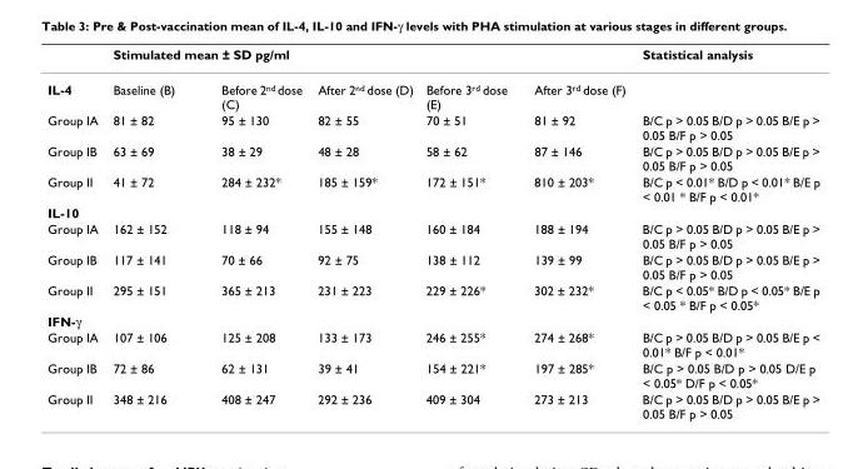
<table><thead><tr><td rowspan="2">IL-4</td><td colspan="5">Stimulated mean ± SD pg/ml</td><td rowspan="2">Statistical analysis</td></tr><tr><td>Baseline (B)</td><td>Before 2<sup>nd</sup> dose (C)</td><td>After 2<sup>nd</sup> dose (D)</td><td>Before 3<sup>rd</sup> dose (E)</td><td>After 3<sup>rd</sup> dose (F)</td></tr></thead><tbody><tr><td>Group IA</td><td>81 ± 82</td><td>95 ± 130</td><td>82 ± 55</td><td>70 ± 51</td><td>81 ± 92</td><td>B/C p &gt; 0.05 B/D p &gt; 0.05 B/E p &gt; 0.05 B/F p &gt; 0.05</td></tr><tr><td>Group IB</td><td>63 ± 69</td><td>38 ± 29</td><td>48 ± 28</td><td>58 ± 62</td><td>87 ± 146</td><td>B/C p &gt; 0.05 B/D p &gt; 0.05 B/E p &gt; 0.05 B/F p &gt; 0.05</td></tr><tr><td>Group II</td><td>41 ± 72</td><td>284 ± 232*</td><td>185 ± 159*</td><td>172 ± 151*</td><td>810 ± 203*</td><td>B/C p &lt; 0.01* B/D p &lt; 0.01* B/E p &lt; 0.01 * B/F p &lt; 0.01*</td></tr><tr><td colspan="7">IL-10</td></tr><tr><td>Group IA</td><td>162 ± 152</td><td>118 ± 94</td><td>155 ± 148</td><td>160 ± 184</td><td>188 ± 194</td><td>B/C p &gt; 0.05 B/D p &gt; 0.05 B/E p &gt; 0.05 B/F p &gt; 0.05</td></tr><tr><td>Group IB</td><td>117 ± 141</td><td>70 ± 66</td><td>92 ± 75</td><td>138 ± 112</td><td>139 ± 99</td><td>B/C p &gt; 0.05 B/D p &gt; 0.05 B/E p &gt; 0.05 B/F p &gt; 0.05</td></tr><tr><td>Group II</td><td>295 ± 151</td><td>365 ± 213</td><td>231 ± 223</td><td>229 ± 226*</td><td>302 ± 232*</td><td>B/C p &lt; 0.05* B/D p &lt; 0.05* B/E p &lt; 0.05 * B/F p &lt; 0.05*</td></tr><tr><td colspan="7">IFN-γ</td></tr><tr><td>Group IA</td><td>107 ± 106</td><td>125 ± 208</td><td>133 ± 173</td><td>246 ± 255*</td><td>274 ± 268*</td><td>B/C p &gt; 0.05 B/D p &gt; 0.05 B/E p &lt; 0.01* B/F p &lt; 0.01*</td></tr><tr><td>Group IB</td><td>72 ± 86</td><td>62 ± 131</td><td>39 ± 41</td><td>154 ± 221*</td><td>197 ± 285*</td><td>B/C p &gt; 0.05 B/D p &gt; 0.05 D/E p &lt; 0.05* D/F p &lt; 0.05*</td></tr><tr><td>Group II</td><td>348 ± 216</td><td>408 ± 247</td><td>292 ± 236</td><td>409 ± 304</td><td>273 ± 213</td><td>B/C p &gt; 0.05 B/D p &gt; 0.05 B/E p &gt; 0.05 B/F p &gt; 0.05</td></tr></tbody></table>